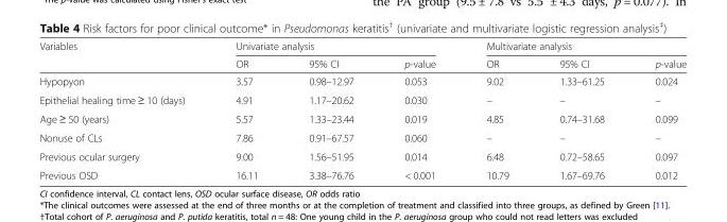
<table><thead><tr><td rowspan="2">Variables</td><td colspan="3">Univariate analysis</td><td colspan="3">Multivariate analysis</td></tr><tr><td>OR</td><td>95% CI</td><td>p-value</td><td>OR</td><td>95% CI</td><td>p-value</td></tr></thead><tbody><tr><td>Hypopyon</td><td>3.57</td><td>0.98–12.97</td><td>0.053</td><td>9.02</td><td>1.33–61.25</td><td>0.024</td></tr><tr><td>Epithelial healing time ≥ 10 (days)</td><td>4.91</td><td>1.17–20.62</td><td>0.030</td><td>–</td><td>–</td><td>–</td></tr><tr><td>Age ≥ 50 (years)</td><td>5.57</td><td>1.33–23.44</td><td>0.019</td><td>4.85</td><td>0.74–31.68</td><td>0.099</td></tr><tr><td>Nonuse of CLs</td><td>7.86</td><td>0.91–67.57</td><td>0.060</td><td>–</td><td>–</td><td>–</td></tr><tr><td>Previous ocular surgery</td><td>9.00</td><td>1.56–51.95</td><td>0.014</td><td>6.48</td><td>0.72–58.65</td><td>0.097</td></tr><tr><td>Previous OSD</td><td>16.11</td><td>3.38–76.76</td><td>&lt; 0.001</td><td>10.79</td><td>1.67–69.76</td><td>0.012</td></tr></tbody></table>